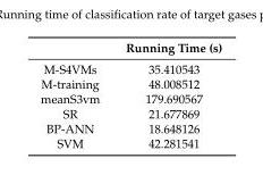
<table><thead><tr><td></td><td>Running Time (s)</td></tr></thead><tbody><tr><td>M-S4VMs</td><td>35.410543</td></tr><tr><td>M-training</td><td>48.008512</td></tr><tr><td>meanS3vm</td><td>179.690567</td></tr><tr><td>SR</td><td>21.677869</td></tr><tr><td>BP-ANN</td><td>18.648126</td></tr><tr><td>SVM</td><td>42.281541</td></tr></tbody></table>